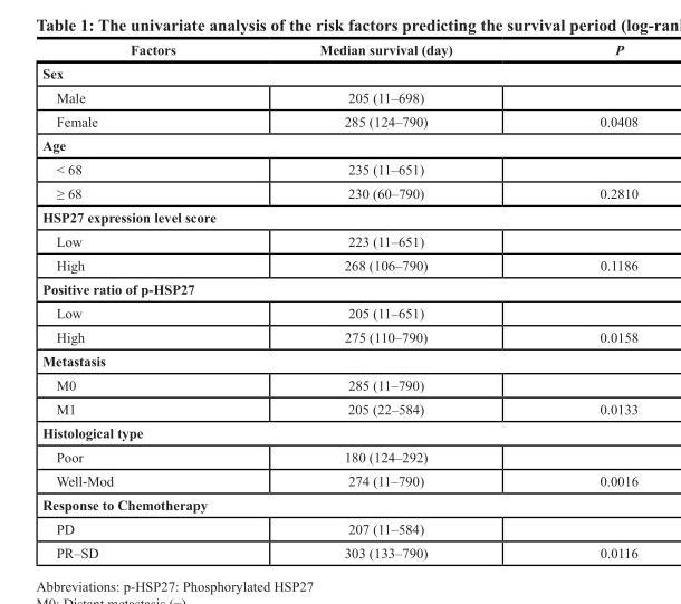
<table><thead><tr><td>Factors</td><td>Median survival (day)</td><td>P</td></tr></thead><tbody><tr><td colspan="3">Sex</td></tr><tr><td>Male</td><td>205 (11–698)</td><td></td></tr><tr><td>Female</td><td>285 (124–790)</td><td>0.0408</td></tr><tr><td colspan="3">Age</td></tr><tr><td>&lt; 68</td><td>235 (11–651)</td><td></td></tr><tr><td>≥ 68</td><td>230 (60–790)</td><td>0.2810</td></tr><tr><td colspan="3">HSP27 expression level score</td></tr><tr><td>Low</td><td>223 (11–651)</td><td></td></tr><tr><td>High</td><td>268 (106–790)</td><td>0.1186</td></tr><tr><td colspan="3">Positive ratio of p-HSP27</td></tr><tr><td>Low</td><td>205 (11–651)</td><td></td></tr><tr><td>High</td><td>275 (110–790)</td><td>0.0158</td></tr><tr><td colspan="3">Metastasis</td></tr><tr><td>M0</td><td>285 (11–790)</td><td></td></tr><tr><td>M1</td><td>205 (22–584)</td><td>0.0133</td></tr><tr><td colspan="3">Histological type</td></tr><tr><td>Poor</td><td>180 (124–292)</td><td></td></tr><tr><td>Well-Mod</td><td>274 (11–790)</td><td>0.0016</td></tr><tr><td colspan="3">Response to Chemotherapy</td></tr><tr><td>PD</td><td>207 (11–584)</td><td></td></tr><tr><td>PR–SD</td><td>303 (133–790)</td><td>0.0116</td></tr></tbody></table>